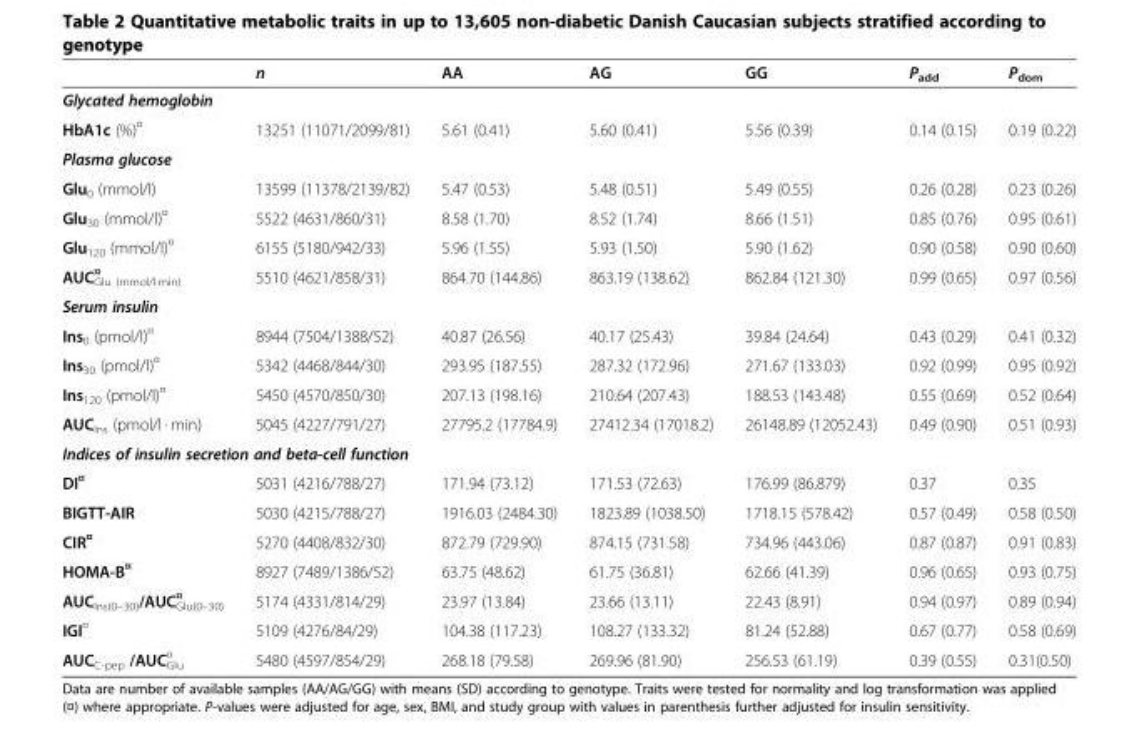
<table><thead><tr><td></td><td>n</td><td>AA</td><td>AG</td><td>GG</td><td>P<sub>add</sub></td><td>P<sub>dom</sub></td></tr></thead><tbody><tr><td colspan="7">Glycated hemoglobin</td></tr><tr><td>HbA1c (%)<sup>¤</sup></td><td>13251 (11071/2099/81)</td><td>5.61 (0.41)</td><td>5.60 (0.41)</td><td>5.56 (0.39)</td><td>0.14 (0.15)</td><td>0.19 (0.22)</td></tr><tr><td colspan="7">Plasma glucose</td></tr><tr><td>Glu<sub>0</sub> (mmol/l)</td><td>13599 (11378/2139/82)</td><td>5.47 (0.53)</td><td>5.48 (0.51)</td><td>5.49 (0.55)</td><td>0.26 (0.28)</td><td>0.23 (0.26)</td></tr><tr><td>Glu<sub>30</sub> (mmol/l)<sup>¤</sup></td><td>5522 (4631/860/31)</td><td>8.58 (1.70)</td><td>8.52 (1.74)</td><td>8.66 (1.51)</td><td>0.85 (0.76)</td><td>0.95 (0.61)</td></tr><tr><td>Glu<sub>120</sub> (mmol/l)<sup>¤</sup></td><td>6155 (5180/942/33)</td><td>5.96 (1.55)</td><td>5.93 (1.50)</td><td>5.90 (1.62)</td><td>0.90 (0.58)</td><td>0.90 (0.60)</td></tr><tr><td>AUC<sub>Glu (mmol/l·min)</sub> <sup>¤</sup></td><td>5510 (4621/858/31)</td><td>864.70 (144.86)</td><td>863.19 (138.62)</td><td>862.84 (121.30)</td><td>0.99 (0.65)</td><td>0.97 (0.56)</td></tr><tr><td colspan="7">Serum insulin</td></tr><tr><td>Ins<sub>0</sub> (pmol/l)<sup>¤</sup></td><td>8944 (7504/1388/52)</td><td>40.87 (26.56)</td><td>40.17 (25.43)</td><td>39.84 (24.64)</td><td>0.43 (0.29)</td><td>0.41 (0.32)</td></tr><tr><td>Ins<sub>30</sub> (pmol/l)<sup>¤</sup></td><td>5342 (4468/844/30)</td><td>293.95 (187.55)</td><td>287.32 (172.96)</td><td>271.67 (133.03)</td><td>0.92 (0.99)</td><td>0.95 (0.92)</td></tr><tr><td>Ins<sub>120</sub> (pmol/l)<sup>¤</sup></td><td>5450 (4570/850/30)</td><td>207.13 (198.16)</td><td>210.64 (207.43)</td><td>188.53 (143.48)</td><td>0.55 (0.69)</td><td>0.52 (0.64)</td></tr><tr><td>AUC<sub>Ins</sub> (pmol/l · min)</td><td>5045 (4227/791/27)</td><td>27795.2 (17784.9)</td><td>27412.34 (17018.2)</td><td>26148.89 (12052.43)</td><td>0.49 (0.90)</td><td>0.51 (0.93)</td></tr><tr><td colspan="7">Indices of insulin secretion and beta-cell function</td></tr><tr><td>DI<sup>¤</sup></td><td>5031 (4216/788/27)</td><td>171.94 (73.12)</td><td>171.53 (72.63)</td><td>176.99 (86.879)</td><td>0.37</td><td>0.35</td></tr><tr><td>BIGTT-AIR</td><td>5030 (4215/788/27)</td><td>1916.03 (2484.30)</td><td>1823.89 (1038.50)</td><td>1718.15 (578.42)</td><td>0.57 (0.49)</td><td>0.58 (0.50)</td></tr><tr><td>CIR<sup>¤</sup></td><td>5270 (4408/832/30)</td><td>872.79 (729.90)</td><td>874.15 (731.58)</td><td>734.96 (443.06)</td><td>0.87 (0.87)</td><td>0.91 (0.83)</td></tr><tr><td>HOMA-B<sup>¤</sup></td><td>8927 (7489/1386/52)</td><td>63.75 (48.62)</td><td>61.75 (36.81)</td><td>62.66 (41.39)</td><td>0.96 (0.65)</td><td>0.93 (0.75)</td></tr><tr><td>AUC<sub>Ins(0–30)</sub>/AUC<sub>Glu(0–30)</sub> <sup>¤</sup></td><td>5174 (4331/814/29)</td><td>23.97 (13.84)</td><td>23.66 (13.11)</td><td>22.43 (8.91)</td><td>0.94 (0.97)</td><td>0.89 (0.94)</td></tr><tr><td>IGI<sup>¤</sup></td><td>5109 (4276/84/29)</td><td>104.38 (117.23)</td><td>108.27 (133.32)</td><td>81.24 (52.88)</td><td>0.67 (0.77)</td><td>0.58 (0.69)</td></tr><tr><td>AUC<sub>C-pep</sub> /AUC<sub>Glu</sub> <sup>¤</sup></td><td>5480 (4597/854/29)</td><td>268.18 (79.58)</td><td>269.96 (81.90)</td><td>256.53 (61.19)</td><td>0.39 (0.55)</td><td>0.31(0.50)</td></tr></tbody></table>